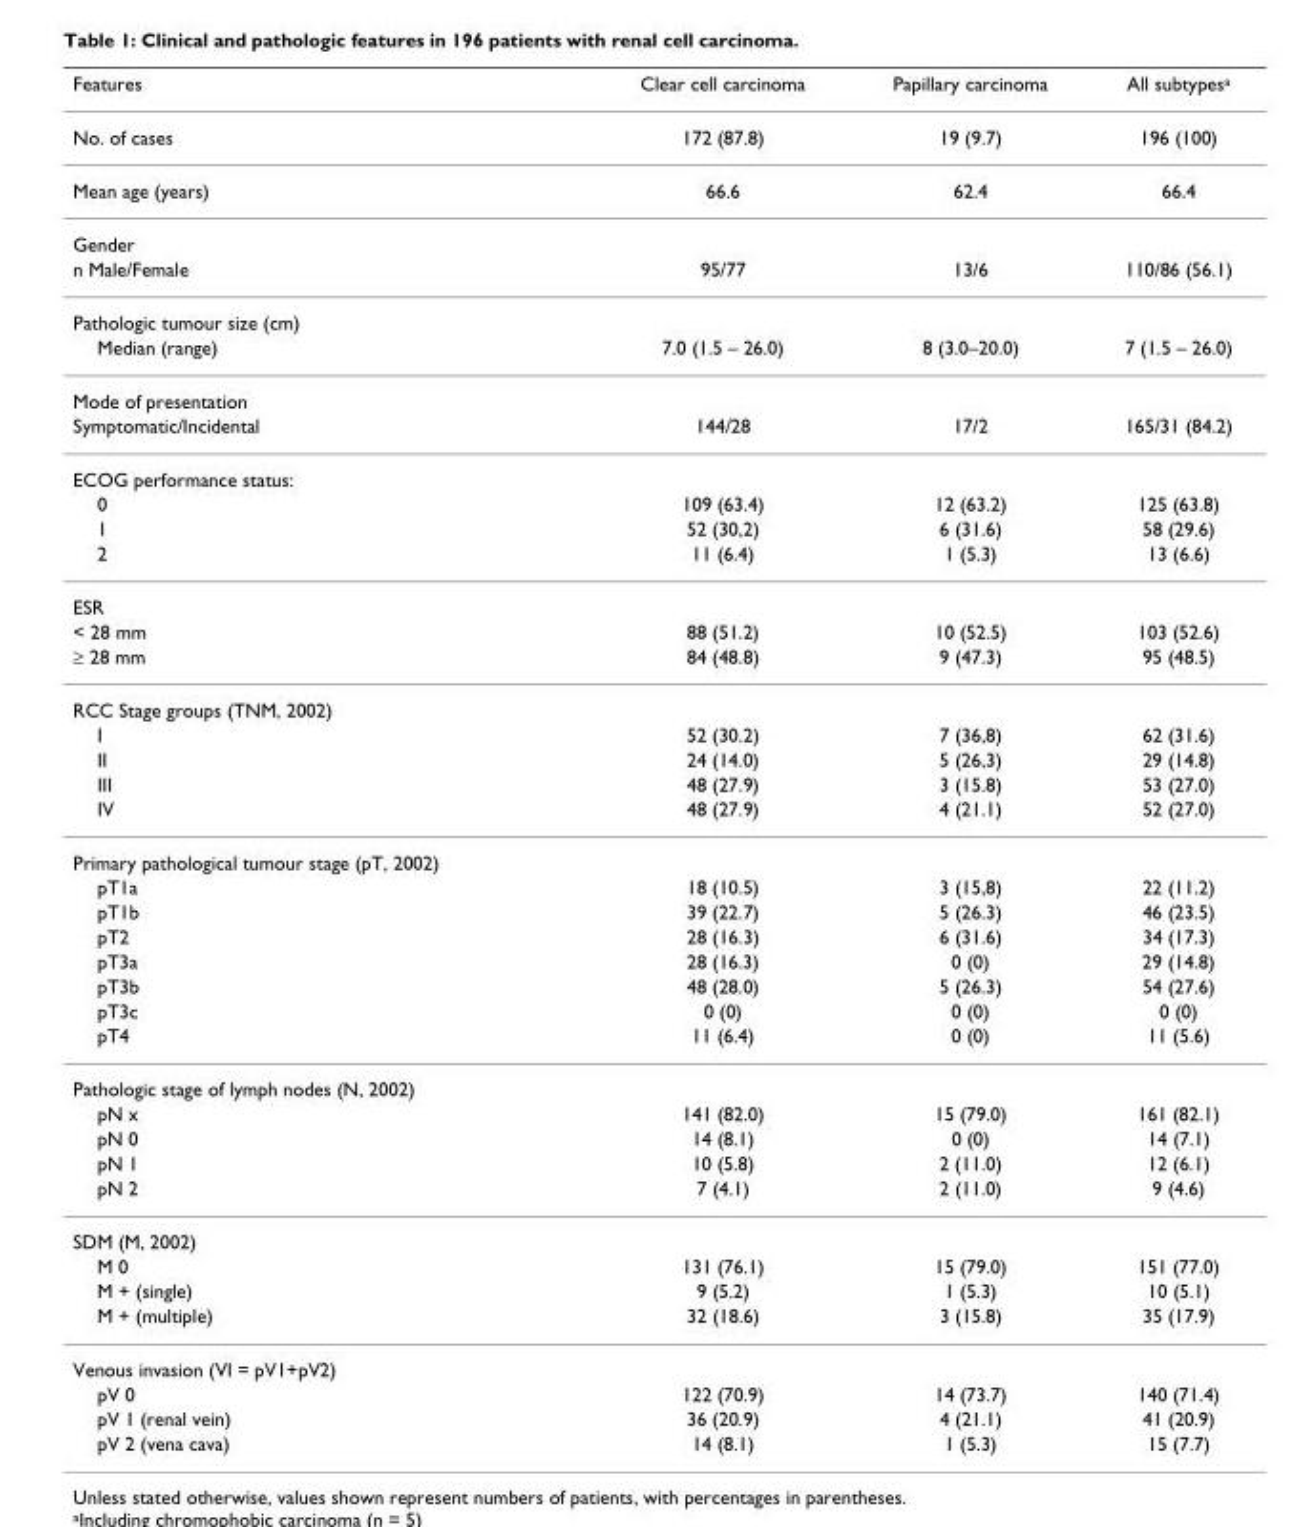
<table><thead><tr><td>Features</td><td>Clear cell carcinoma</td><td>Papillary carcinoma</td><td>All subtypes<sup>a</sup></td></tr></thead><tbody><tr><td>No. of cases</td><td>172 (87.8)</td><td>19 (9.7)</td><td>196 (100)</td></tr><tr><td>Mean age (years)</td><td>66.6</td><td>62.4</td><td>66.4</td></tr><tr><td colspan="4">Gender</td></tr><tr><td>n Male/Female</td><td>95/77</td><td>13/6</td><td>110/86 (56.1)</td></tr><tr><td colspan="4">Pathologic tumour size (cm)</td></tr><tr><td>Median (range)</td><td>7.0 (1.5 – 26.0)</td><td>8 (3.0–20.0)</td><td>7 (1.5 – 26.0)</td></tr><tr><td colspan="4">Mode of presentation</td></tr><tr><td>Symptomatic/Incidental</td><td>144/28</td><td>17/2</td><td>165/31 (84.2)</td></tr><tr><td colspan="4">ECOG performance status:</td></tr><tr><td>0</td><td>109 (63.4)</td><td>12 (63.2)</td><td>125 (63.8)</td></tr><tr><td>1</td><td>52 (30,2)</td><td>6 (31.6)</td><td>58 (29.6)</td></tr><tr><td>2</td><td>11 (6.4)</td><td>1 (5.3)</td><td>13 (6.6)</td></tr><tr><td colspan="4">ESR</td></tr><tr><td>&lt; 28 mm</td><td>88 (51.2)</td><td>10 (52.5)</td><td>103 (52.6)</td></tr><tr><td>≥ 28 mm</td><td>84 (48.8)</td><td>9 (47.3)</td><td>95 (48.5)</td></tr><tr><td colspan="4">RCC Stage groups (TNM, 2002)</td></tr><tr><td>I</td><td>52 (30.2)</td><td>7 (36,8)</td><td>62 (31.6)</td></tr><tr><td>II</td><td>24 (14.0)</td><td>5 (26,3)</td><td>29 (14.8)</td></tr><tr><td>III</td><td>48 (27.9)</td><td>3 (15.8)</td><td>53 (27.0)</td></tr><tr><td>IV</td><td>48 (27.9)</td><td>4 (21.1)</td><td>52 (27.0)</td></tr><tr><td colspan="4">Primary pathological tumour stage (pT, 2002)</td></tr><tr><td>pT1a</td><td>18 (10.5)</td><td>3 (15,8)</td><td>22 (11.2)</td></tr><tr><td>pT1b</td><td>39 (22.7)</td><td>5 (26.3)</td><td>46 (23.5)</td></tr><tr><td>pT2</td><td>28 (16.3)</td><td>6 (31.6)</td><td>34 (17.3)</td></tr><tr><td>pT3a</td><td>28 (16.3)</td><td>0 (0)</td><td>29 (14.8)</td></tr><tr><td>pT3b</td><td>48 (28.0)</td><td>5 (26.3)</td><td>54 (27.6)</td></tr><tr><td>pT3c</td><td>0 (0)</td><td>0 (0)</td><td>0 (0)</td></tr><tr><td>pT4</td><td>11 (6.4)</td><td>0 (0)</td><td>11 (5.6)</td></tr><tr><td colspan="4">Pathologic stage of lymph nodes (N, 2002)</td></tr><tr><td>pN x</td><td>141 (82.0)</td><td>15 (79.0)</td><td>161 (82.1)</td></tr><tr><td>pN 0</td><td>14 (8.1)</td><td>0 (0)</td><td>14 (7.1)</td></tr><tr><td>pN 1</td><td>10 (5.8)</td><td>2 (11.0)</td><td>12 (6.1)</td></tr><tr><td>pN 2</td><td>7 (4.1)</td><td>2 (11.0)</td><td>9 (4.6)</td></tr><tr><td colspan="4">SDM (M, 2002)</td></tr><tr><td>M 0</td><td>131 (76.1)</td><td>15 (79.0)</td><td>151 (77.0)</td></tr><tr><td>M + (single)</td><td>9 (5.2)</td><td>1 (5.3)</td><td>10 (5.1)</td></tr><tr><td>M + (multiple)</td><td>32 (18.6)</td><td>3 (15.8)</td><td>35 (17.9)</td></tr><tr><td colspan="4">Venous invasion (VI = pV1+pV2)</td></tr><tr><td>pV 0</td><td>122 (70.9)</td><td>14 (73.7)</td><td>140 (71.4)</td></tr><tr><td>pV 1 (renal vein)</td><td>36 (20.9)</td><td>4 (21.1)</td><td>41 (20.9)</td></tr><tr><td>pV 2 (vena cava)</td><td>14 (8.1)</td><td>1 (5.3)</td><td>15 (7.7)</td></tr></tbody></table>